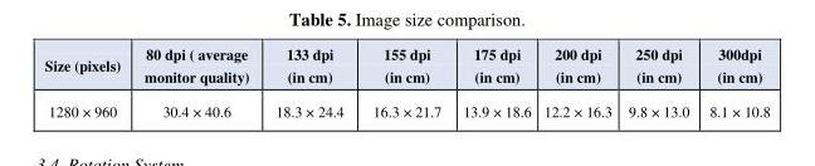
<table><thead><tr><td>Size (pixels)</td><td>80 dpi ( average monitor quality)</td><td>133 dpi (in cm)</td><td>155 dpi (in cm)</td><td>175 dpi (in cm)</td><td>200 dpi (in cm)</td><td>250 dpi (in cm)</td><td>300dpi (in cm)</td></tr></thead><tbody><tr><td>1280 × 960</td><td>30.4 × 40.6</td><td>18.3 × 24.4</td><td>16.3 × 21.7</td><td>13.9 × 18.6</td><td>12.2 × 16.3</td><td>9.8 × 13.0</td><td>8.1 × 10.8</td></tr></tbody></table>